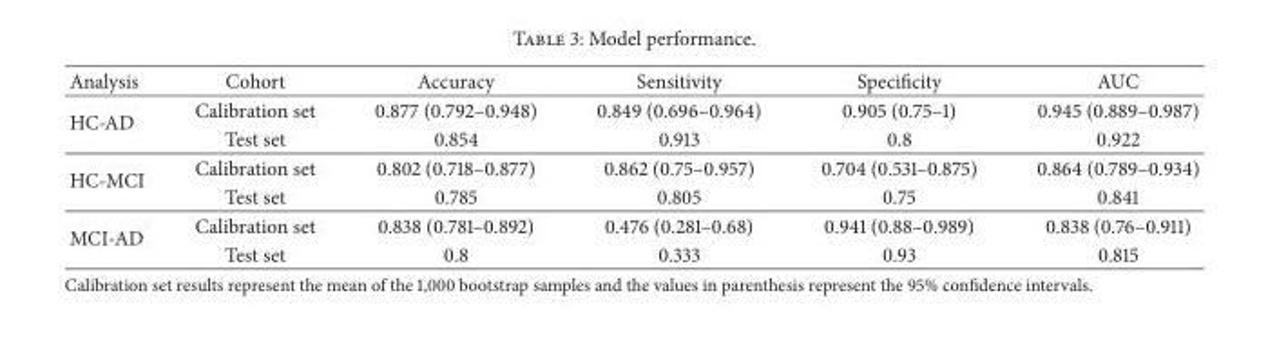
<table><thead><tr><td>Analysis</td><td>Cohort</td><td>Accuracy</td><td>Sensitivity</td><td>Specificity</td><td>AUC</td></tr></thead><tbody><tr><td rowspan="2">HC-AD</td><td>Calibration set</td><td>0.877 (0.792–0.948)</td><td>0.849 (0.696–0.964)</td><td>0.905 (0.75–1)</td><td>0.945 (0.889–0.987)</td></tr><tr><td>Test set</td><td>0.854</td><td>0.913</td><td>0.8</td><td>0.922</td></tr><tr><td rowspan="2">HC-MCI</td><td>Calibration set</td><td>0.802 (0.718–0.877)</td><td>0.862 (0.75–0.957)</td><td>0.704 (0.531–0.875)</td><td>0.864 (0.789–0.934)</td></tr><tr><td>Test set</td><td>0.785</td><td>0.805</td><td>0.75</td><td>0.841</td></tr><tr><td rowspan="2">MCI-AD</td><td>Calibration set</td><td>0.838 (0.781–0.892)</td><td>0.476 (0.281–0.68)</td><td>0.941 (0.88–0.989)</td><td>0.838 (0.76–0.911)</td></tr><tr><td>Test set</td><td>0.8</td><td>0.333</td><td>0.93</td><td>0.815</td></tr></tbody></table>